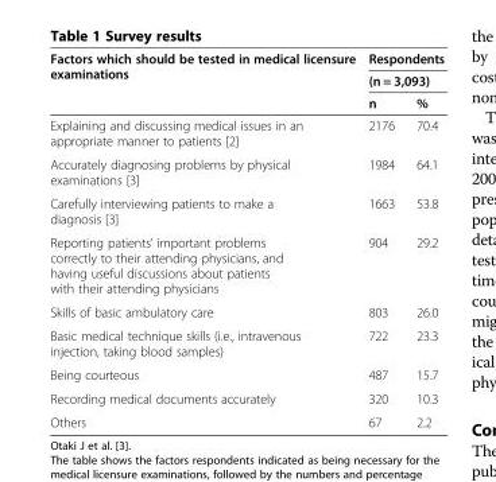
<table><thead><tr><td rowspan="3">Factors which should be tested in medical licensure examinations</td><td rowspan="2" colspan="2">Respondents (n = 3,093)</td></tr><tr></tr><tr><td>n</td><td>%</td></tr></thead><tbody><tr><td>Explaining and discussing medical issues in an appropriate manner to patients [2]</td><td>2176</td><td>70.4</td></tr><tr><td>Accurately diagnosing problems by physical examinations [3]</td><td>1984</td><td>64.1</td></tr><tr><td>Carefully interviewing patients to make a diagnosis [3]</td><td>1663</td><td>53.8</td></tr><tr><td>Reporting patients’ important problems correctly to their attending physicians, and having useful discussions about patients with their attending physicians</td><td>904</td><td>29.2</td></tr><tr><td>Skills of basic ambulatory care</td><td>803</td><td>26.0</td></tr><tr><td>Basic medical technique skills (i.e., intravenous injection, taking blood samples)</td><td>722</td><td>23.3</td></tr><tr><td>Being courteous</td><td>487</td><td>15.7</td></tr><tr><td>Recording medical documents accurately</td><td>320</td><td>10.3</td></tr><tr><td>Others</td><td>67</td><td>2.2</td></tr></tbody></table>